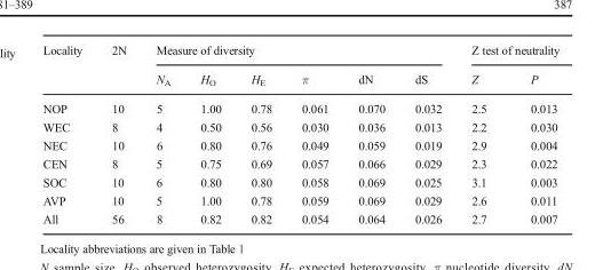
<table><thead><tr><td rowspan="2">Locality</td><td rowspan="2">2N</td><td colspan="6">Measure of diversity</td><td colspan="2">Z test of neutrality</td></tr><tr><td>N<sub>A</sub></td><td>H<sub>O</sub></td><td>H<sub>E</sub></td><td>π</td><td>dN</td><td>dS</td><td>Z</td><td>P</td></tr></thead><tbody><tr><td>NOP</td><td>10</td><td>5</td><td>1.00</td><td>0.78</td><td>0.061</td><td>0.070</td><td>0.032</td><td>2.5</td><td>0.013</td></tr><tr><td>WEC</td><td>8</td><td>4</td><td>0.50</td><td>0.56</td><td>0.030</td><td>0.036</td><td>0.013</td><td>2.2</td><td>0.030</td></tr><tr><td>NEC</td><td>10</td><td>6</td><td>0.80</td><td>0.76</td><td>0.049</td><td>0.059</td><td>0.019</td><td>2.9</td><td>0.004</td></tr><tr><td>CEN</td><td>8</td><td>5</td><td>0.75</td><td>0.69</td><td>0.057</td><td>0.066</td><td>0.029</td><td>2.3</td><td>0.022</td></tr><tr><td>SOC</td><td>10</td><td>6</td><td>0.80</td><td>0.80</td><td>0.058</td><td>0.069</td><td>0.025</td><td>3.1</td><td>0.003</td></tr><tr><td>AVP</td><td>10</td><td>5</td><td>1.00</td><td>0.78</td><td>0.059</td><td>0.069</td><td>0.029</td><td>2.6</td><td>0.011</td></tr><tr><td>All</td><td>56</td><td>8</td><td>0.82</td><td>0.82</td><td>0.054</td><td>0.064</td><td>0.026</td><td>2.7</td><td>0.007</td></tr></tbody></table>